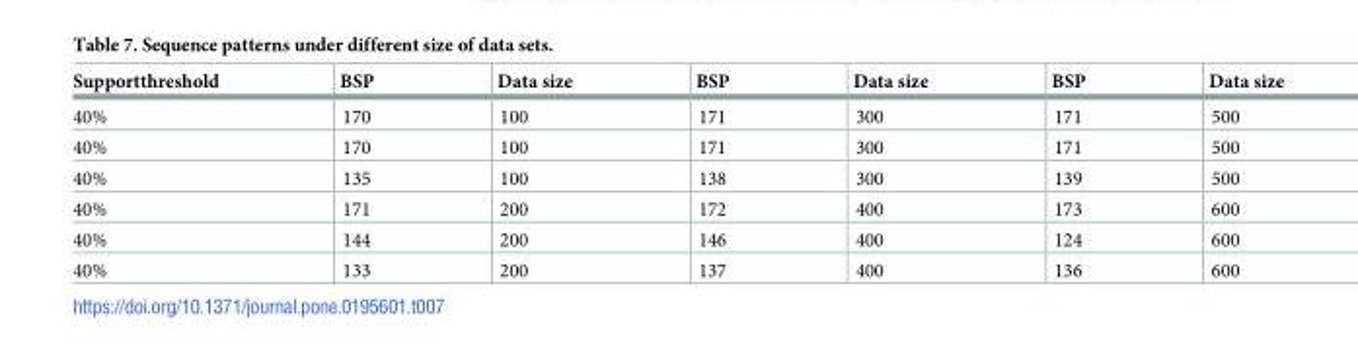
<table><thead><tr><td>Supportthreshold</td><td>BSP</td><td>Data size</td><td>BSP</td><td>Data size</td><td>BSP</td><td>Data size</td></tr></thead><tbody><tr><td>40%</td><td>170</td><td>100</td><td>171</td><td>300</td><td>171</td><td>500</td></tr><tr><td>40%</td><td>170</td><td>100</td><td>171</td><td>300</td><td>171</td><td>500</td></tr><tr><td>40%</td><td>135</td><td>100</td><td>138</td><td>300</td><td>139</td><td>500</td></tr><tr><td>40%</td><td>171</td><td>200</td><td>172</td><td>400</td><td>173</td><td>600</td></tr><tr><td>40%</td><td>144</td><td>200</td><td>146</td><td>400</td><td>124</td><td>600</td></tr><tr><td>40%</td><td>133</td><td>200</td><td>137</td><td>400</td><td>136</td><td>600</td></tr></tbody></table>